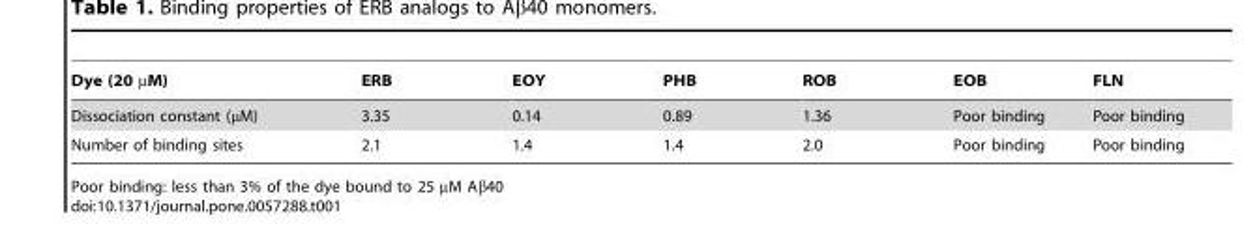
<table><thead><tr><td>Dye (20 µM)</td><td>ERB</td><td>EOY</td><td>PHB</td><td>ROB</td><td>EOB</td><td>FLN</td></tr></thead><tbody><tr><td>Dissociation constant (μM)</td><td>3.35</td><td>0.14</td><td>0.89</td><td>1.36</td><td>Poor binding</td><td>Poor binding</td></tr><tr><td>Number of binding sites</td><td>2.1</td><td>1.4</td><td>1.4</td><td>2.0</td><td>Poor binding</td><td>Poor binding</td></tr></tbody></table>